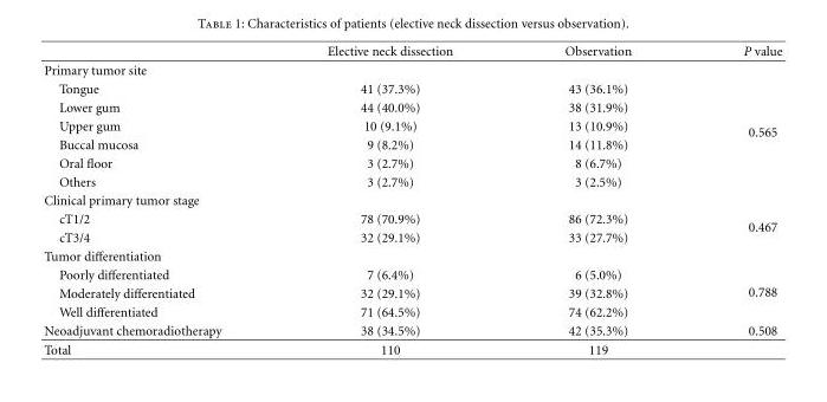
<table><thead><tr><td></td><td>Elective neck dissection</td><td>Observation</td><td>P value</td></tr></thead><tbody><tr><td colspan="3">Primary tumor site</td><td rowspan="7">0.565</td></tr><tr><td>Tongue</td><td>41 (37.3%)</td><td>43 (36.1%)</td></tr><tr><td>Lower gum</td><td>44 (40.0%)</td><td>38 (31.9%)</td></tr><tr><td>Upper gum</td><td>10 (9.1%)</td><td>13 (10.9%)</td></tr><tr><td>Buccal mucosa</td><td>9 (8.2%)</td><td>14 (11.8%)</td></tr><tr><td>Oral floor</td><td>3 (2.7%)</td><td>8 (6.7%)</td></tr><tr><td>Others</td><td>3 (2.7%)</td><td>3 (2.5%)</td></tr><tr><td colspan="4">Clinical primary tumor stage</td></tr><tr><td>cT1/2</td><td>78 (70.9%)</td><td>86 (72.3%)</td><td rowspan="2">0.467</td></tr><tr><td>cT3/4</td><td>32 (29.1%)</td><td>33 (27.7%)</td></tr><tr><td colspan="4">Tumor differentiation</td></tr><tr><td>Poorly differentiated</td><td>7 (6.4%)</td><td>6 (5.0%)</td><td rowspan="3">0.788</td></tr><tr><td>Moderately differentiated</td><td>32 (29.1%)</td><td>39 (32.8%)</td></tr><tr><td>Well differentiated</td><td>71 (64.5%)</td><td>74 (62.2%)</td></tr><tr><td>Neoadjuvant chemoradiotherapy</td><td>38 (34.5%)</td><td>42 (35.3%)</td><td>0.508</td></tr><tr><td>Total</td><td>110</td><td>119</td><td></td></tr></tbody></table>